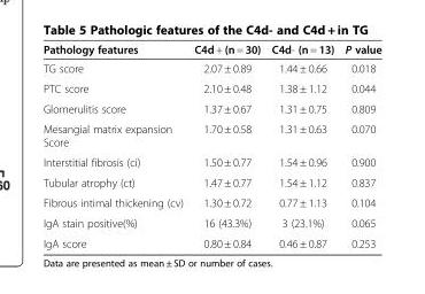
<table><thead><tr><td>Pathology features</td><td>C4d + (n = 30)</td><td>C4d- (n = 13)</td><td>P value</td></tr></thead><tbody><tr><td>TG score</td><td>2.07 ± 0.89</td><td>1.44 ± 0.66</td><td>0.018</td></tr><tr><td>PTC score</td><td>2.10 ± 0.48</td><td>1.38 ± 1.12</td><td>0.044</td></tr><tr><td>Glomerulitis score</td><td>1.37 ± 0.67</td><td>1.31 ± 0.75</td><td>0.809</td></tr><tr><td>Mesangial matrix expansion Score</td><td>1.70 ± 0.58</td><td>1.31 ± 0.63</td><td>0.070</td></tr><tr><td>Interstitial fibrosis (ci)</td><td>1.50 ± 0.77</td><td>1.54 ± 0.96</td><td>0.900</td></tr><tr><td>Tubular atrophy (ct)</td><td>1.47 ± 0.77</td><td>1.54 ± 1.12</td><td>0.837</td></tr><tr><td>Fibrous intimal thickening (cv)</td><td>1.30 ± 0.72</td><td>0.77 ± 1.13</td><td>0.104</td></tr><tr><td>IgA stain positive(%)</td><td>16 (43.3%)</td><td>3 (23.1%)</td><td>0.065</td></tr><tr><td>IgA score</td><td>0.80 ± 0.84</td><td>0.46 ± 0.87</td><td>0.253</td></tr></tbody></table>